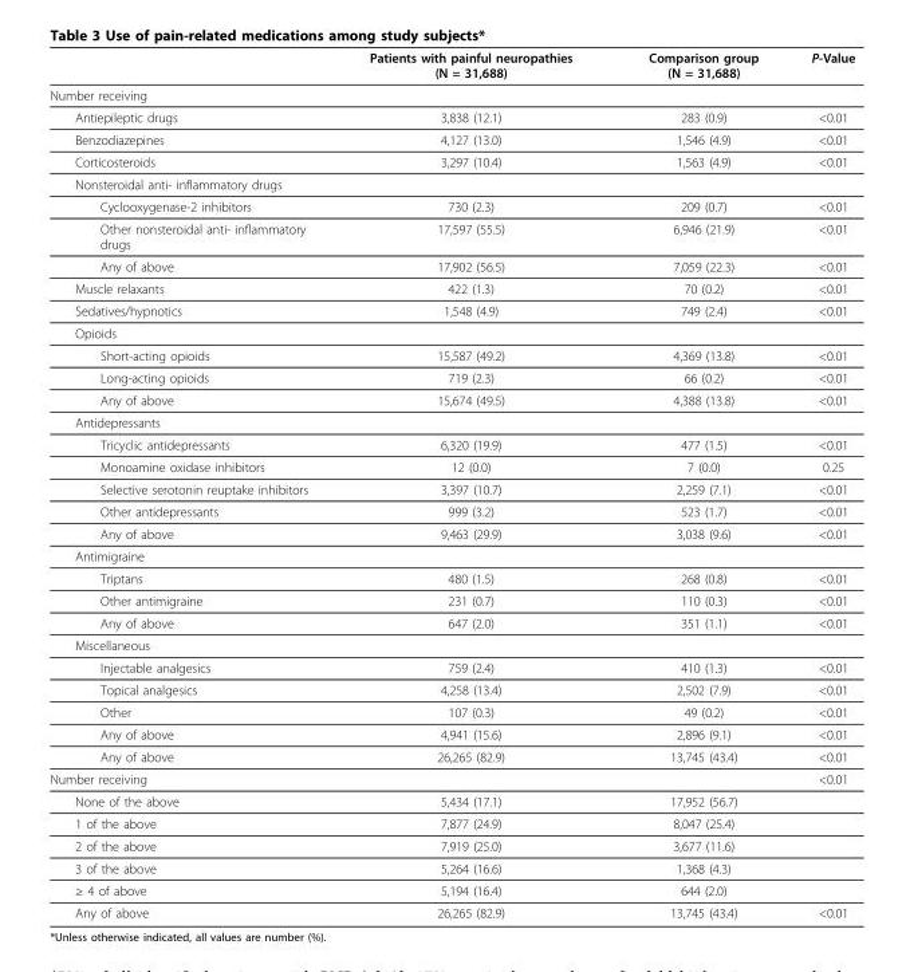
<table><thead><tr><td></td><td>Patients with painful neuropathies (N = 31,688)</td><td>Comparison group (N = 31,688)</td><td>P-Value</td></tr></thead><tbody><tr><td colspan="4">Number receiving</td></tr><tr><td>Antiepileptic drugs</td><td>3,838 (12.1)</td><td>283 (0.9)</td><td>&lt;0.01</td></tr><tr><td>Benzodiazepines</td><td>4,127 (13.0)</td><td>1,546 (4.9)</td><td>&lt;0.01</td></tr><tr><td>Corticosteroids</td><td>3,297 (10.4)</td><td>1,563 (4.9)</td><td>&lt;0.01</td></tr><tr><td colspan="4">Nonsteroidal anti- inflammatory drugs</td></tr><tr><td>Cyclooxygenase-2 inhibitors</td><td>730 (2.3)</td><td>209 (0.7)</td><td>&lt;0.01</td></tr><tr><td>Other nonsteroidal anti- inflammatory drugs</td><td>17,597 (55.5)</td><td>6,946 (21.9)</td><td>&lt;0.01</td></tr><tr><td>Any of above</td><td>17,902 (56.5)</td><td>7,059 (22.3)</td><td>&lt;0.01</td></tr><tr><td>Muscle relaxants</td><td>422 (1.3)</td><td>70 (0.2)</td><td>&lt;0.01</td></tr><tr><td>Sedatives/hypnotics</td><td>1,548 (4.9)</td><td>749 (2.4)</td><td>&lt;0.01</td></tr><tr><td colspan="4">Opioids</td></tr><tr><td>Short-acting opioids</td><td>15,587 (49.2)</td><td>4,369 (13.8)</td><td>&lt;0.01</td></tr><tr><td>Long-acting opioids</td><td>719 (2.3)</td><td>66 (0.2)</td><td>&lt;0.01</td></tr><tr><td>Any of above</td><td>15,674 (49.5)</td><td>4,388 (13.8)</td><td>&lt;0.01</td></tr><tr><td colspan="4">Antidepressants</td></tr><tr><td>Tricyclic antidepressants</td><td>6,320 (19.9)</td><td>477 (1.5)</td><td>&lt;0.01</td></tr><tr><td>Monoamine oxidase inhibitors</td><td>12 (0.0)</td><td>7 (0.0)</td><td>0.25</td></tr><tr><td>Selective serotonin reuptake inhibitors</td><td>3,397 (10.7)</td><td>2,259 (7.1)</td><td>&lt;0.01</td></tr><tr><td>Other antidepressants</td><td>999 (3.2)</td><td>523 (1.7)</td><td>&lt;0.01</td></tr><tr><td>Any of above</td><td>9,463 (29.9)</td><td>3,038 (9.6)</td><td>&lt;0.01</td></tr><tr><td colspan="4">Antimigraine</td></tr><tr><td>Triptans</td><td>480 (1.5)</td><td>268 (0.8)</td><td>&lt;0.01</td></tr><tr><td>Other antimigraine</td><td>231 (0.7)</td><td>110 (0.3)</td><td>&lt;0.01</td></tr><tr><td>Any of above</td><td>647 (2.0)</td><td>351 (1.1)</td><td>&lt;0.01</td></tr><tr><td colspan="4">Miscellaneous</td></tr><tr><td>Injectable analgesics</td><td>759 (2.4)</td><td>410 (1.3)</td><td>&lt;0.01</td></tr><tr><td>Topical analgesics</td><td>4,258 (13.4)</td><td>2,502 (7.9)</td><td>&lt;0.01</td></tr><tr><td>Other</td><td>107 (0.3)</td><td>49 (0.2)</td><td>&lt;0.01</td></tr><tr><td>Any of above</td><td>4,941 (15.6)</td><td>2,896 (9.1)</td><td>&lt;0.01</td></tr><tr><td>Any of above</td><td>26,265 (82.9)</td><td>13,745 (43.4)</td><td>&lt;0.01</td></tr><tr><td>Number receiving</td><td></td><td></td><td>&lt;0.01</td></tr><tr><td>None of the above</td><td>5,434 (17.1)</td><td>17,952 (56.7)</td><td></td></tr><tr><td>1 of the above</td><td>7,877 (24.9)</td><td>8,047 (25.4)</td><td></td></tr><tr><td>2 of the above</td><td>7,919 (25.0)</td><td>3,677 (11.6)</td><td></td></tr><tr><td>3 of the above</td><td>5,264 (16.6)</td><td>1,368 (4.3)</td><td></td></tr><tr><td>≥ 4 of above</td><td>5,194 (16.4)</td><td>644 (2.0)</td><td></td></tr><tr><td>Any of above</td><td>26,265 (82.9)</td><td>13,745 (43.4)</td><td>&lt;0.01</td></tr></tbody></table>